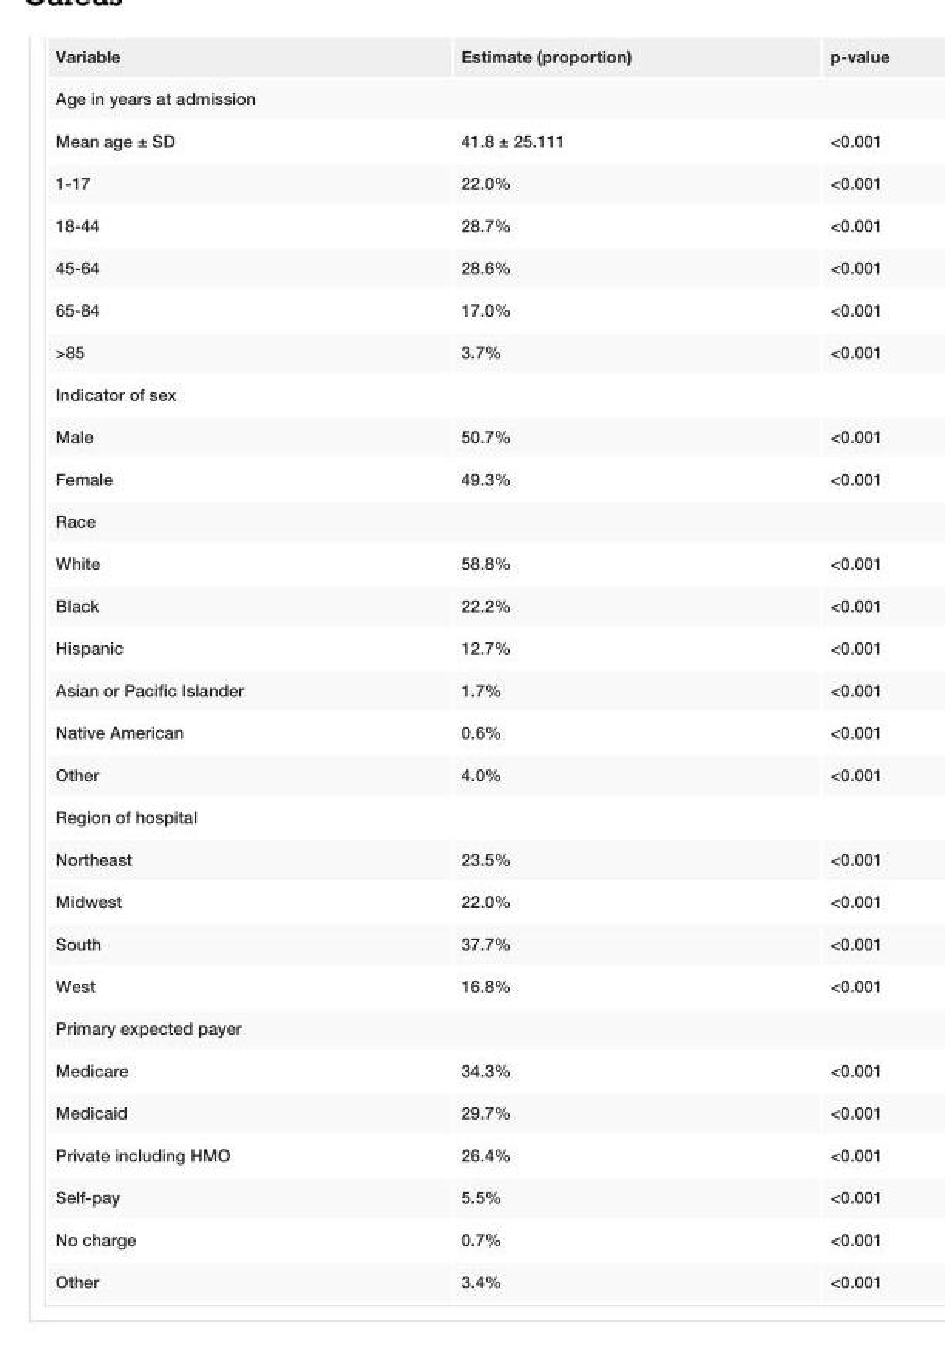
<table><tbody><tr><td>Variable</td><td>Estimate (proportion)</td><td>p-value</td></tr><tr><td colspan="3">Age in years at admission</td></tr><tr><td>Mean age ± SD</td><td>41.8 ± 25.111</td><td>&lt;0.001</td></tr><tr><td>1-17</td><td>22.0%</td><td>&lt;0.001</td></tr><tr><td>18-44</td><td>28.7%</td><td>&lt;0.001</td></tr><tr><td>45-64</td><td>28.6%</td><td>&lt;0.001</td></tr><tr><td>65-84</td><td>17.0%</td><td>&lt;0.001</td></tr><tr><td>&gt;85</td><td>3.7%</td><td>&lt;0.001</td></tr><tr><td colspan="3">Indicator of sex</td></tr><tr><td>Male</td><td>50.7%</td><td>&lt;0.001</td></tr><tr><td>Female</td><td>49.3%</td><td>&lt;0.001</td></tr><tr><td colspan="3">Race</td></tr><tr><td>White</td><td>58.8%</td><td>&lt;0.001</td></tr><tr><td>Black</td><td>22.2%</td><td>&lt;0.001</td></tr><tr><td>Hispanic</td><td>12.7%</td><td>&lt;0.001</td></tr><tr><td>Asian or Pacific Islander</td><td>1.7%</td><td>&lt;0.001</td></tr><tr><td>Native American</td><td>0.6%</td><td>&lt;0.001</td></tr><tr><td>Other</td><td>4.0%</td><td>&lt;0.001</td></tr><tr><td colspan="3">Region of hospital</td></tr><tr><td>Northeast</td><td>23.5%</td><td>&lt;0.001</td></tr><tr><td>Midwest</td><td>22.0%</td><td>&lt;0.001</td></tr><tr><td>South</td><td>37.7%</td><td>&lt;0.001</td></tr><tr><td>West</td><td>16.8%</td><td>&lt;0.001</td></tr><tr><td colspan="3">Primary expected payer</td></tr><tr><td>Medicare</td><td>34.3%</td><td>&lt;0.001</td></tr><tr><td>Medicaid</td><td>29.7%</td><td>&lt;0.001</td></tr><tr><td>Private including HMO</td><td>26.4%</td><td>&lt;0.001</td></tr><tr><td>Self-pay</td><td>5.5%</td><td>&lt;0.001</td></tr><tr><td>No charge</td><td>0.7%</td><td>&lt;0.001</td></tr><tr><td>Other</td><td>3.4%</td><td>&lt;0.001</td></tr></tbody></table>